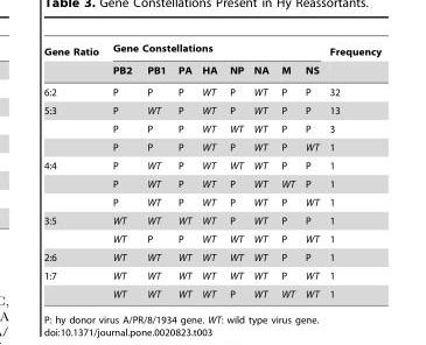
<table><thead><tr><td rowspan="2">Gene Ratio</td><td colspan="8">Gene Constellations</td><td rowspan="2">Frequency</td></tr><tr><td>PB2</td><td>PB1</td><td>PA</td><td>HA</td><td>NP</td><td>NA</td><td>M</td><td>NS</td></tr></thead><tbody><tr><td>6:2</td><td>P</td><td>P</td><td>P</td><td>WT</td><td>P</td><td>WT</td><td>P</td><td>P</td><td>32</td></tr><tr><td rowspan="3">5:3</td><td>P</td><td>WT</td><td>P</td><td>WT</td><td>P</td><td>WT</td><td>P</td><td>P</td><td>13</td></tr><tr><td>P</td><td>P</td><td>P</td><td>WT</td><td>WT</td><td>WT</td><td>P</td><td>P</td><td>3</td></tr><tr><td>P</td><td>P</td><td>P</td><td>WT</td><td>P</td><td>WT</td><td>P</td><td>WT</td><td>1</td></tr><tr><td rowspan="3">4:4</td><td>P</td><td>WT</td><td>P</td><td>WT</td><td>WT</td><td>WT</td><td>P</td><td>P</td><td>1</td></tr><tr><td>P</td><td>WT</td><td>P</td><td>WT</td><td>P</td><td>WT</td><td>WT</td><td>P</td><td>1</td></tr><tr><td>P</td><td>WT</td><td>P</td><td>WT</td><td>P</td><td>WT</td><td>P</td><td>WT</td><td>1</td></tr><tr><td rowspan="2">3:5</td><td>WT</td><td>WT</td><td>WT</td><td>WT</td><td>P</td><td>WT</td><td>P</td><td>P</td><td>1</td></tr><tr><td>WT</td><td>P</td><td>P</td><td>WT</td><td>WT</td><td>WT</td><td>P</td><td>WT</td><td>1</td></tr><tr><td>2:6</td><td>WT</td><td>WT</td><td>WT</td><td>WT</td><td>WT</td><td>WT</td><td>P</td><td>P</td><td>1</td></tr><tr><td rowspan="2">1:7</td><td>WT</td><td>WT</td><td>WT</td><td>WT</td><td>WT</td><td>WT</td><td>P</td><td>WT</td><td>1</td></tr><tr><td>WT</td><td>WT</td><td>WT</td><td>WT</td><td>P</td><td>WT</td><td>WT</td><td>WT</td><td>1</td></tr></tbody></table>